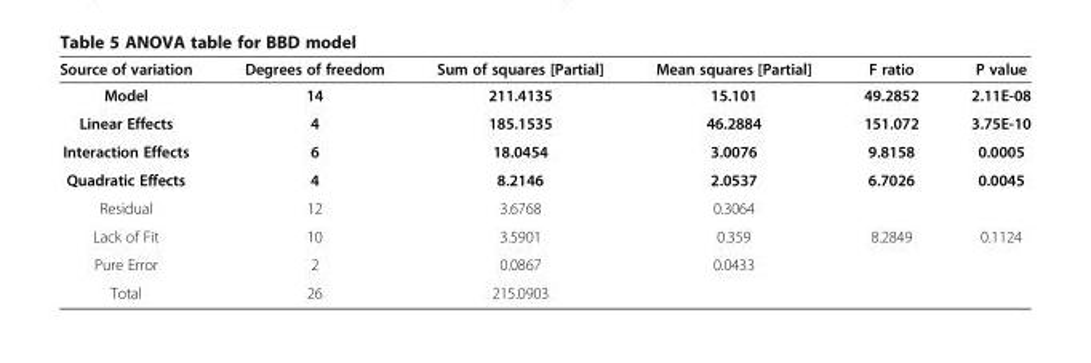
<table><thead><tr><td>Source of variation</td><td>Degrees of freedom</td><td>Sum of squares [Partial]</td><td>Mean squares [Partial]</td><td>F ratio</td><td>P value</td></tr></thead><tbody><tr><td>Model</td><td>14</td><td>211.4135</td><td>15.101</td><td>49.2852</td><td>2.11E-08</td></tr><tr><td>Linear Effects</td><td>4</td><td>185.1535</td><td>46.2884</td><td>151.072</td><td>3.75E-10</td></tr><tr><td>Interaction Effects</td><td>6</td><td>18.0454</td><td>3.0076</td><td>9.8158</td><td>0.0005</td></tr><tr><td>Quadratic Effects</td><td>4</td><td>8.2146</td><td>2.0537</td><td>6.7026</td><td>0.0045</td></tr><tr><td>Residual</td><td>12</td><td>3.6768</td><td>0.3064</td><td></td><td></td></tr><tr><td>Lack of Fit</td><td>10</td><td>3.5901</td><td>0.359</td><td>8.2849</td><td>0.1124</td></tr><tr><td>Pure Error</td><td>2</td><td>0.0867</td><td>0.0433</td><td></td><td></td></tr><tr><td>Total</td><td>26</td><td>215.0903</td><td></td><td></td><td></td></tr></tbody></table>